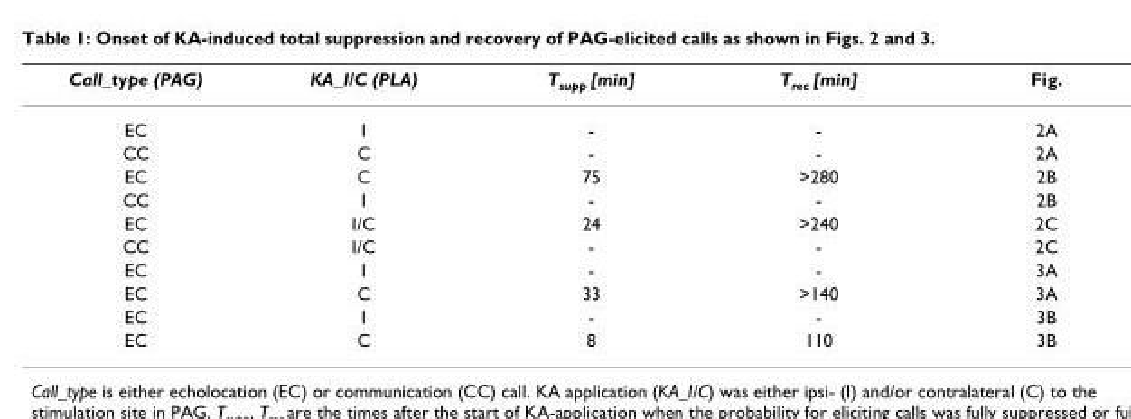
<table><thead><tr><td>Call_type (PAG)</td><td>KA_I/C (PLA)</td><td>Tsupp [min]</td><td>Trec [min]</td><td>Fig.</td></tr></thead><tbody><tr><td>EC</td><td>I</td><td>-</td><td>-</td><td>2A</td></tr><tr><td>CC</td><td>C</td><td>-</td><td>-</td><td>2A</td></tr><tr><td>EC</td><td>C</td><td>75</td><td>&gt;280</td><td>2B</td></tr><tr><td>CC</td><td>I</td><td>-</td><td>-</td><td>2B</td></tr><tr><td>EC</td><td>I/C</td><td>24</td><td>&gt;240</td><td>2C</td></tr><tr><td>CC</td><td>I/C</td><td>-</td><td>-</td><td>2C</td></tr><tr><td>EC</td><td>I</td><td>-</td><td>-</td><td>3A</td></tr><tr><td>EC</td><td>C</td><td>33</td><td>&gt;140</td><td>3A</td></tr><tr><td>EC</td><td>I</td><td>-</td><td>-</td><td>3B</td></tr><tr><td>EC</td><td>C</td><td>8</td><td>110</td><td>3B</td></tr></tbody></table>